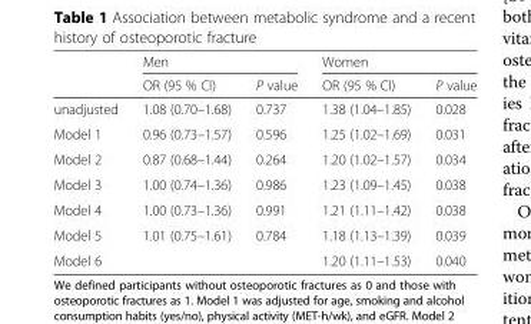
<table><thead><tr><td rowspan="2"></td><td colspan="2">Men</td><td colspan="2">Women</td></tr><tr><td>OR (95 % CI)</td><td>P value</td><td>OR (95 % CI)</td><td>P value</td></tr></thead><tbody><tr><td>unadjusted</td><td>1.08 (0.70–1.68)</td><td>0.737</td><td>1.38 (1.04–1.85)</td><td>0.028</td></tr><tr><td>Model 1</td><td>0.96 (0.73–1.57)</td><td>0.596</td><td>1.25 (1.02–1.69)</td><td>0.031</td></tr><tr><td>Model 2</td><td>0.87 (0.68–1.44)</td><td>0.264</td><td>1.20 (1.02–1.57)</td><td>0.034</td></tr><tr><td>Model 3</td><td>1.00 (0.74–1.36)</td><td>0.986</td><td>1.23 (1.09–1.45)</td><td>0.038</td></tr><tr><td>Model 4</td><td>1.00 (0.73–1.36)</td><td>0.991</td><td>1.21 (1.11–1.42)</td><td>0.038</td></tr><tr><td>Model 5</td><td>1.01 (0.75–1.61)</td><td>0.784</td><td>1.18 (1.13–1.39)</td><td>0.039</td></tr><tr><td>Model 6</td><td></td><td></td><td>1.20 (1.11–1.53)</td><td>0.040</td></tr></tbody></table>